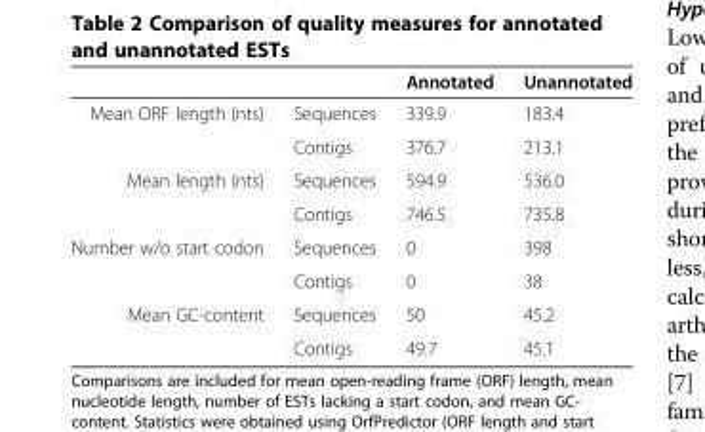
<table><thead><tr><td></td><td></td><td>Annotated</td><td>Unannotated</td></tr></thead><tbody><tr><td rowspan="2">Mean ORF length (nts)</td><td>Sequences</td><td>339.9</td><td>183.4</td></tr><tr><td>Contigs</td><td>376.7</td><td>213.1</td></tr><tr><td rowspan="2">Mean length (nts)</td><td>Sequences</td><td>594.9</td><td>536.0</td></tr><tr><td>Contigs</td><td>746.5</td><td>735.8</td></tr><tr><td rowspan="2">Number w/o start codon</td><td>Sequences</td><td>0</td><td>398</td></tr><tr><td>Contigs</td><td>0</td><td>38</td></tr><tr><td rowspan="2">Mean GC-content</td><td>Sequences</td><td>50</td><td>45.2</td></tr><tr><td>Contigs</td><td>49.7</td><td>45.1</td></tr></tbody></table>